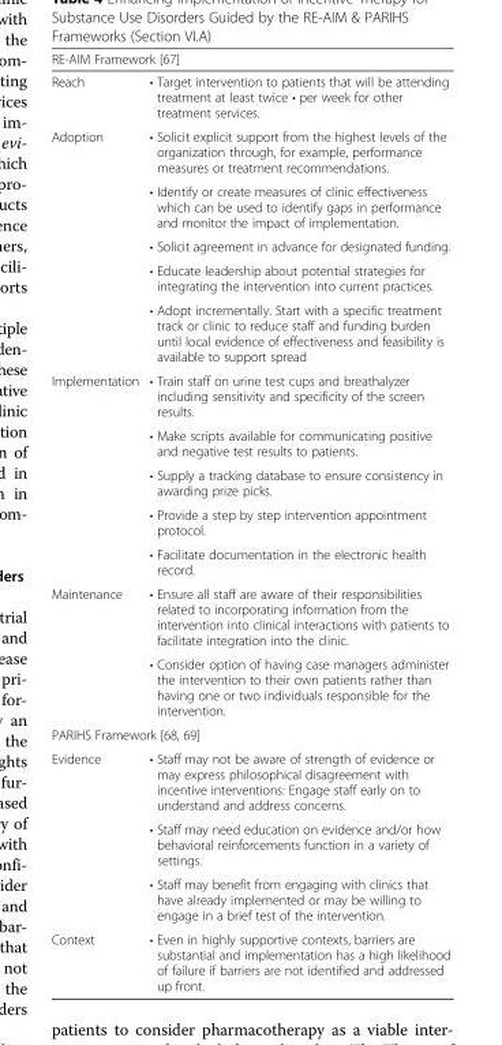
<table><thead><tr><td colspan="2">RE-AIM Framework [67]</td></tr><tr><td>Reach</td><td>• Target intervention to patients that will be attending treatment at least twice • per week for other treatment services.</td></tr></thead><tbody><tr><td rowspan="5">Adoption</td><td>• Solicit explicit support from the highest levels of the organization through, for example, performance measures or treatment recommendations.</td></tr><tr><td>• Identify or create measures of clinic effectiveness which can be used to identify gaps in performance and monitor the impact of implementation.</td></tr><tr><td>• Solicit agreement in advance for designated funding.</td></tr><tr><td>• Educate leadership about potential strategies for integrating the intervention into current practices.</td></tr><tr><td>• Adopt incrementally. Start with a specific treatment track or clinic to reduce staff and funding burden until local evidence of effectiveness and feasibility is available to support spread</td></tr><tr><td rowspan="5">Implementation</td><td>• Train staff on urine test cups and breathalyzer including sensitivity and specificity of the screen results.</td></tr><tr><td>• Make scripts available for communicating positive and negative test results to patients.</td></tr><tr><td>• Supply a tracking database to ensure consistency in awarding prize picks.</td></tr><tr><td>• Provide a step by step intervention appointment protocol.</td></tr><tr><td>• Facilitate documentation in the electronic health record.</td></tr><tr><td rowspan="2">Maintenance</td><td>• Ensure all staff are aware of their responsibilities related to incorporating information from the intervention into clinical interactions with patients to facilitate integration into the clinic.</td></tr><tr><td>• Consider option of having case managers administer the intervention to their own patients rather than having one or two individuals responsible for the intervention.</td></tr><tr><td colspan="2">PARIHS Framework [68, 69]</td></tr><tr><td rowspan="3">Evidence</td><td>• Staff may not be aware of strength of evidence or may express philosophical disagreement with incentive interventions: Engage staff early on to understand and address concerns.</td></tr><tr><td>• Staff may need education on evidence and/or how behavioral reinforcements function in a variety of settings.</td></tr><tr><td>• Staff may benefit from engaging with clinics that have already implemented or may be willing to engage in a brief test of the intervention.</td></tr><tr><td>Context</td><td>• Even in highly supportive contexts, barriers are substantial and implementation has a high likelihood of failure if barriers are not identified and addressed up front.</td></tr></tbody></table>